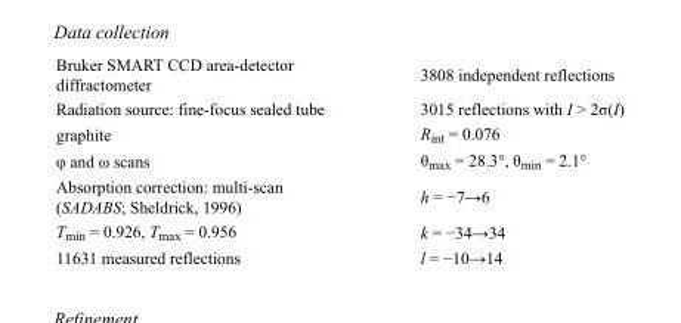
<table><tbody><tr><td>Bruker SMART CCD area-detector diffractometer</td><td>3808 independent reflections</td></tr><tr><td>Radiation source: fine-focus sealed tube</td><td>3015 reflections with I &gt; 2σ(I)</td></tr><tr><td>graphite</td><td>R<sub>int</sub> = 0.076</td></tr><tr><td>φ and ω scans</td><td>θ<sub>max</sub> = 28.3°, θ<sub>min</sub> = 2.1°</td></tr><tr><td>Absorption correction: multi-scan (SADABS; Sheldrick, 1996)</td><td>h = −7→6</td></tr><tr><td>T<sub>min</sub> = 0.926, T<sub>max</sub> = 0.956</td><td>k = −34→34</td></tr><tr><td>11631 measured reflections</td><td>l = −10→14</td></tr></tbody></table>